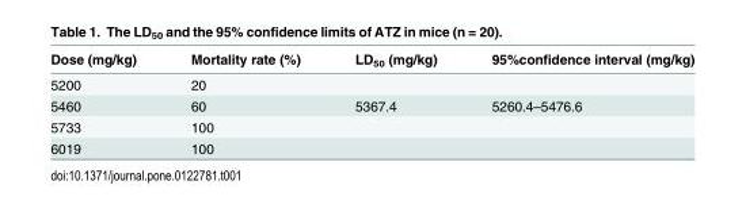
<table><thead><tr><td>Dose (mg/kg)</td><td>Mortality rate (%)</td><td>LD<sub>50</sub> (mg/kg)</td><td>95%confidence interval (mg/kg)</td></tr></thead><tbody><tr><td>5200</td><td>20</td><td></td><td></td></tr><tr><td>5460</td><td>60</td><td>5367.4</td><td>5260.4–5476.6</td></tr><tr><td>5733</td><td>100</td><td></td><td></td></tr><tr><td>6019</td><td>100</td><td></td><td></td></tr></tbody></table>